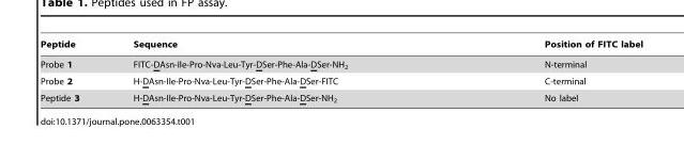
<table><thead><tr><td>Peptide</td><td>Sequence</td><td>Position of FITC label</td></tr></thead><tbody><tr><td>Probe 1</td><td>FITC-DAsn-Ile-Pro-Nva-Leu-Tyr-DSer-Phe-Ala-DSer-NH<sub>2</sub></td><td>N-terminal</td></tr><tr><td>Probe 2</td><td>H-DAsn-Ile-Pro-Nva-Leu-Tyr-DSer-Phe-Ala-DSer-FITC</td><td>C-terminal</td></tr><tr><td>Peptide 3</td><td>H-DAsn-Ile-Pro-Nva-Leu-Tyr-DSer-Phe-Ala-DSer-NH<sub>2</sub></td><td>No label</td></tr></tbody></table>